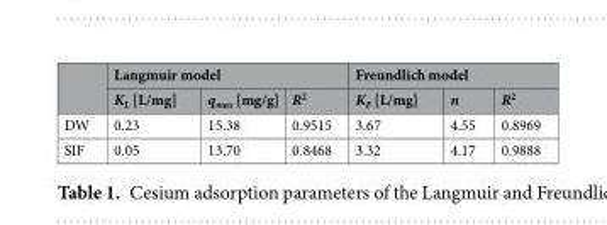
<table><thead><tr><td rowspan="2"></td><td colspan="3">Langmuir model</td><td colspan="3">Freundlich model</td></tr><tr><td>K<sub>L</sub> [L/mg]</td><td>q<sub>max</sub> [mg/g]</td><td>R<sup>2</sup></td><td>K<sub>F</sub> [L/mg]</td><td>n</td><td>R<sup>2</sup></td></tr></thead><tbody><tr><td>DW</td><td>0.23</td><td>15.38</td><td>0.9515</td><td>3.67</td><td>4.55</td><td>0.8969</td></tr><tr><td>SIF</td><td>0.05</td><td>13.70</td><td>0.8468</td><td>3.32</td><td>4.17</td><td>0.9888</td></tr></tbody></table>